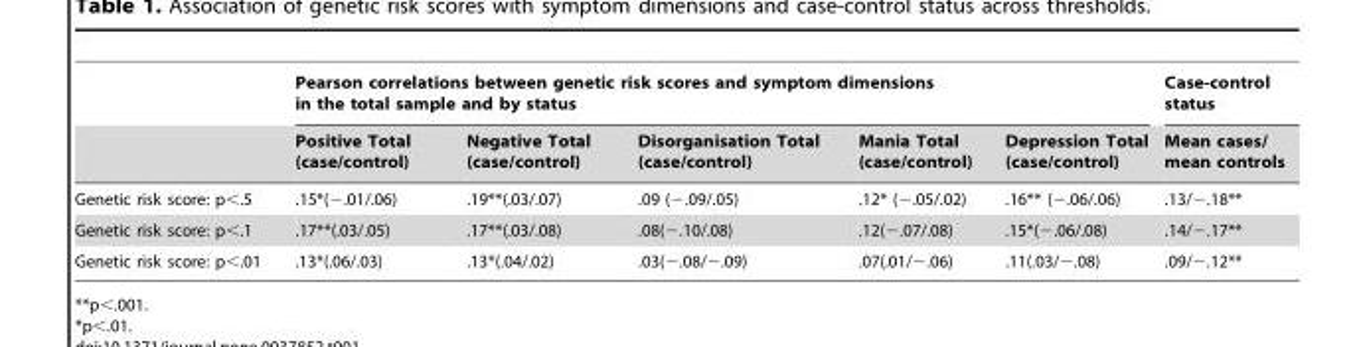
<table><thead><tr><td rowspan="2"></td><td colspan="5">Pearson correlations between genetic risk scores and symptom dimensions in the total sample and by status</td><td rowspan="2">Case-control status Mean cases/ mean controls</td></tr><tr><td>Positive Total (case/control)</td><td>Negative Total (case/control)</td><td>Disorganisation Total (case/control)</td><td>Mania Total (case/control)</td><td>Depression Total (case/control)</td></tr></thead><tbody><tr><td>Genetic risk score: p&lt;.5</td><td>.15*(−.01/.06)</td><td>.19**(.03/.07)</td><td>.09 (−.09/.05)</td><td>.12* (−.05/.02)</td><td>.16** (−.06/.06)</td><td>.13/−.18**</td></tr><tr><td>Genetic risk score: p&lt;.1</td><td>.17**(.03/.05)</td><td>.17**(.03/.08)</td><td>.08(−.10/.08)</td><td>.12(−.07/.08)</td><td>.15*(−.06/.08)</td><td>.14/−.17**</td></tr><tr><td>Genetic risk score: p&lt;.01</td><td>.13*(.06/.03)</td><td>.13*(.04/.02)</td><td>.03(−.08/−.09)</td><td>.07(.01/−.06)</td><td>.11(.03/−.08)</td><td>.09/−.12**</td></tr></tbody></table>